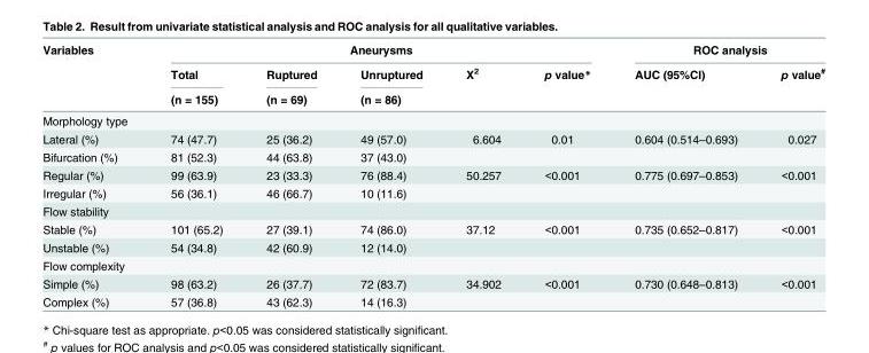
<table><thead><tr><td rowspan="3">Variables</td><td colspan="5">Aneurysms</td><td colspan="2">ROC analysis</td></tr><tr><td rowspan="2">Total (n = 155)</td><td rowspan="2">Ruptured (n = 69)</td><td rowspan="2">Unruptured (n = 86)</td><td rowspan="2">X<sup>2</sup></td><td rowspan="2">p value*</td><td rowspan="2">AUC (95%CI)</td><td rowspan="2">p value<sup>#</sup></td></tr><tr></tr></thead><tbody><tr><td colspan="8">Morphology type</td></tr><tr><td>Lateral (%)</td><td>74 (47.7)</td><td>25 (36.2)</td><td>49 (57.0)</td><td>6.604</td><td>0.01</td><td>0.604 (0.514–0.693)</td><td>0.027</td></tr><tr><td>Bifurcation (%)</td><td>81 (52.3)</td><td>44 (63.8)</td><td>37 (43.0)</td><td></td><td></td><td></td><td></td></tr><tr><td>Regular (%)</td><td>99 (63.9)</td><td>23 (33.3)</td><td>76 (88.4)</td><td>50.257</td><td>&lt;0.001</td><td>0.775 (0.697–0.853)</td><td>&lt;0.001</td></tr><tr><td>Irregular (%)</td><td>56 (36.1)</td><td>46 (66.7)</td><td>10 (11.6)</td><td></td><td></td><td></td><td></td></tr><tr><td colspan="8">Flow stability</td></tr><tr><td>Stable (%)</td><td>101 (65.2)</td><td>27 (39.1)</td><td>74 (86.0)</td><td>37.12</td><td>&lt;0.001</td><td>0.735 (0.652–0.817)</td><td>&lt;0.001</td></tr><tr><td>Unstable (%)</td><td>54 (34.8)</td><td>42 (60.9)</td><td>12 (14.0)</td><td></td><td></td><td></td><td></td></tr><tr><td colspan="8">Flow complexity</td></tr><tr><td>Simple (%)</td><td>98 (63.2)</td><td>26 (37.7)</td><td>72 (83.7)</td><td>34.902</td><td>&lt;0.001</td><td>0.730 (0.648–0.813)</td><td>&lt;0.001</td></tr><tr><td>Complex (%)</td><td>57 (36.8)</td><td>43 (62.3)</td><td>14 (16.3)</td><td></td><td></td><td></td><td></td></tr></tbody></table>